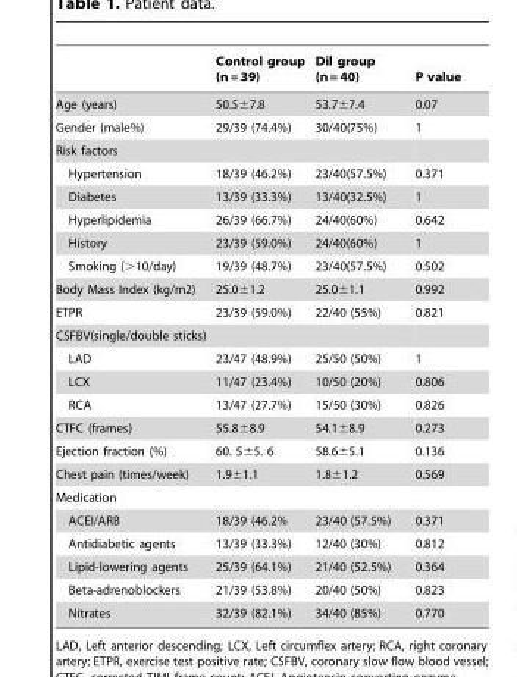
<table><thead><tr><td></td><td>Control group (n = 39)</td><td>Dil group (n = 40)</td><td>P value</td></tr></thead><tbody><tr><td>Age (years)</td><td>50.5±7.8</td><td>53.7±7.4</td><td>0.07</td></tr><tr><td>Gender (male%)</td><td>29/39 (74.4%)</td><td>30/40(75%)</td><td>1</td></tr><tr><td colspan="4">Risk factors</td></tr><tr><td>Hypertension</td><td>18/39 (46.2%)</td><td>23/40(57.5%)</td><td>0.371</td></tr><tr><td>Diabetes</td><td>13/39 (33.3%)</td><td>13/40(32.5%)</td><td>1</td></tr><tr><td>Hyperlipidemia</td><td>26/39 (66.7%)</td><td>24/40(60%)</td><td>0.642</td></tr><tr><td>History</td><td>23/39 (59.0%)</td><td>24/40(60%)</td><td>1</td></tr><tr><td>Smoking (&gt;10/day)</td><td>19/39 (48.7%)</td><td>23/40(57.5%)</td><td>0.502</td></tr><tr><td>Body Mass Index (kg/m2)</td><td>25.0±1.2</td><td>25.0±1.1</td><td>0.992</td></tr><tr><td>ETPR</td><td>23/39 (59.0%)</td><td>22/40 (55%)</td><td>0.821</td></tr><tr><td colspan="4">CSFBV(single/double sticks)</td></tr><tr><td>LAD</td><td>23/47 (48.9%)</td><td>25/50 (50%)</td><td>1</td></tr><tr><td>LCX</td><td>11/47 (23.4%)</td><td>10/50 (20%)</td><td>0.806</td></tr><tr><td>RCA</td><td>13/47 (27.7%)</td><td>15/50 (30%)</td><td>0.826</td></tr><tr><td>CTFC (frames)</td><td>55.8±8.9</td><td>54.1±8.9</td><td>0.273</td></tr><tr><td>Ejection fraction (%)</td><td>60. 5±5. 6</td><td>58.6±5.1</td><td>0.136</td></tr><tr><td>Chest pain (times/week)</td><td>1.9±1.1</td><td>1.8±1.2</td><td>0.569</td></tr><tr><td colspan="4">Medication</td></tr><tr><td>ACEI/ARB</td><td>18/39 (46.2%</td><td>23/40 (57.5%)</td><td>0.371</td></tr><tr><td>Antidiabetic agents</td><td>13/39 (33.3%)</td><td>12/40 (30%)</td><td>0.812</td></tr><tr><td>Lipid-lowering agents</td><td>25/39 (64.1%)</td><td>21/40 (52.5%)</td><td>0.364</td></tr><tr><td>Beta-adrenoblockers</td><td>21/39 (53.8%)</td><td>20/40 (50%)</td><td>0.823</td></tr><tr><td>Nitrates</td><td>32/39 (82.1%)</td><td>34/40 (85%)</td><td>0.770</td></tr></tbody></table>